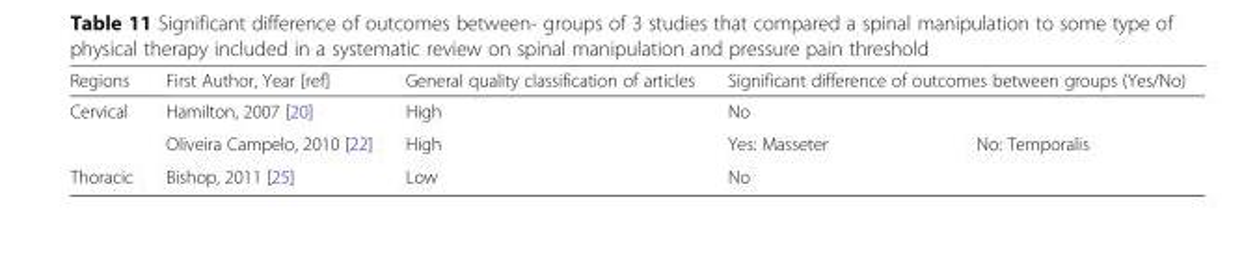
<table><thead><tr><td rowspan="3">Regions Cervical</td><td rowspan="3">First Author, Year [ref] Hamilton, 2007 [20] Oliveira Campelo, 2010 [22]</td><td rowspan="3">General quality classification of articles High High</td><td rowspan="2" colspan="2">Significant difference of outcomes between groups (Yes/No) No</td></tr><tr></tr><tr><td>Yes: Masseter</td><td>No: Temporalis</td></tr></thead><tbody><tr><td>Thoracic</td><td>Bishop, 2011 [25]</td><td>Low</td><td colspan="2">No</td></tr></tbody></table>